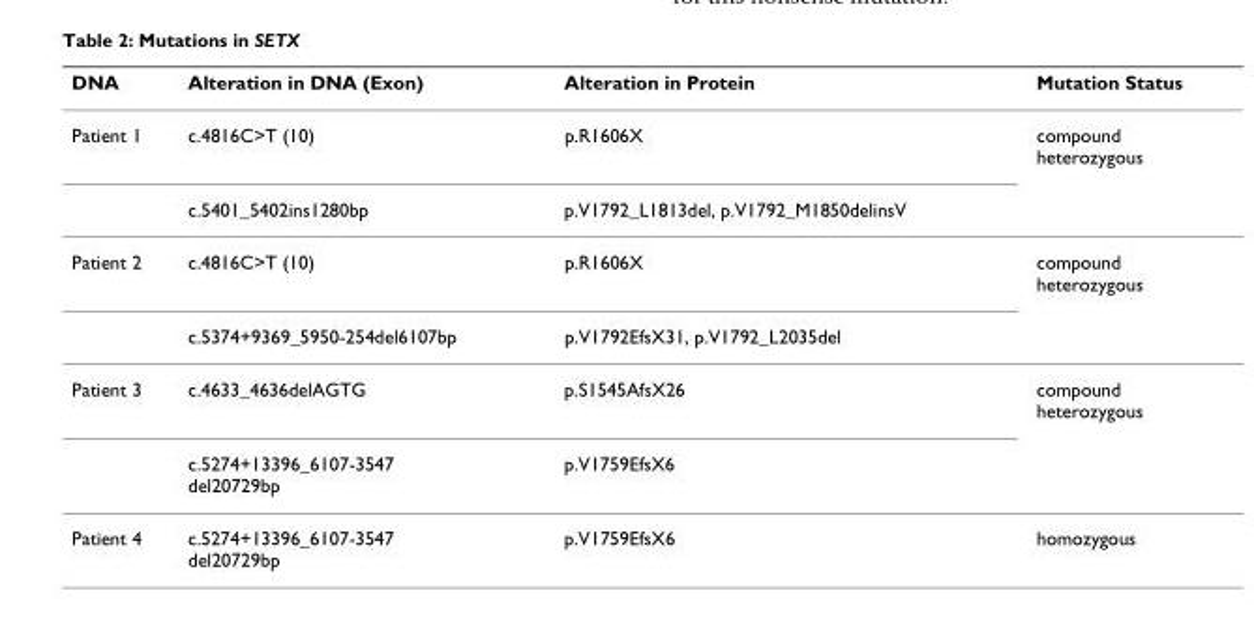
<table><thead><tr><td>DNA</td><td>Alteration in DNA (Exon)</td><td>Alteration in Protein</td><td>Mutation Status</td></tr></thead><tbody><tr><td rowspan="2">Patient 1</td><td>c.4816C&gt;T (10)</td><td>p.R1606X</td><td>compound heterozygous</td></tr><tr><td>c.5401_5402ins1280bp</td><td>p.V1792_L1813del, p.V1792_M1850delinsV</td><td></td></tr><tr><td rowspan="2">Patient 2</td><td>c.4816C&gt;T (10)</td><td>p.R1606X</td><td>compound heterozygous</td></tr><tr><td>c.5374+9369_5950-254del6107bp</td><td>p.V1792EfsX31, p.V1792_L2035del</td><td></td></tr><tr><td rowspan="2">Patient 3</td><td>c.4633_4636delAGTG</td><td>p.S1545AfsX26</td><td>compound heterozygous</td></tr><tr><td>c.5274+13396_6107-3547 del20729bp</td><td>p.V1759EfsX6</td><td></td></tr><tr><td>Patient 4</td><td>c.5274+13396_6107-3547 del20729bp</td><td>p.V1759EfsX6</td><td>homozygous</td></tr></tbody></table>